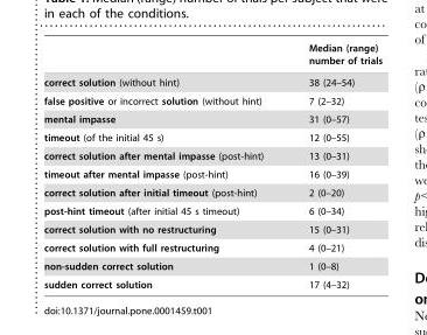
<table><thead><tr><td></td><td>Median (range) number of trials</td></tr></thead><tbody><tr><td>correct solution (without hint)</td><td>38 (24–54)</td></tr><tr><td>false positive or incorrect solution (without hint)</td><td>7 (2–32)</td></tr><tr><td>mental impasse</td><td>31 (0–57)</td></tr><tr><td>timeout (of the initial 45 s)</td><td>12 (0–55)</td></tr><tr><td>correct solution after mental impasse (post-hint)</td><td>13 (0–31)</td></tr><tr><td>timeout after mental impasse (post-hint)</td><td>16 (0–39)</td></tr><tr><td>correct solution after initial timeout (post-hint)</td><td>2 (0–20)</td></tr><tr><td>post-hint timeout (after initial 45 s timeout)</td><td>6 (0–34)</td></tr><tr><td>correct solution with no restructuring</td><td>15 (0–31)</td></tr><tr><td>correct solution with full restructuring</td><td>4 (0–21)</td></tr><tr><td>non-sudden correct solution</td><td>1 (0–8)</td></tr><tr><td>sudden correct solution</td><td>17 (4–32)</td></tr></tbody></table>